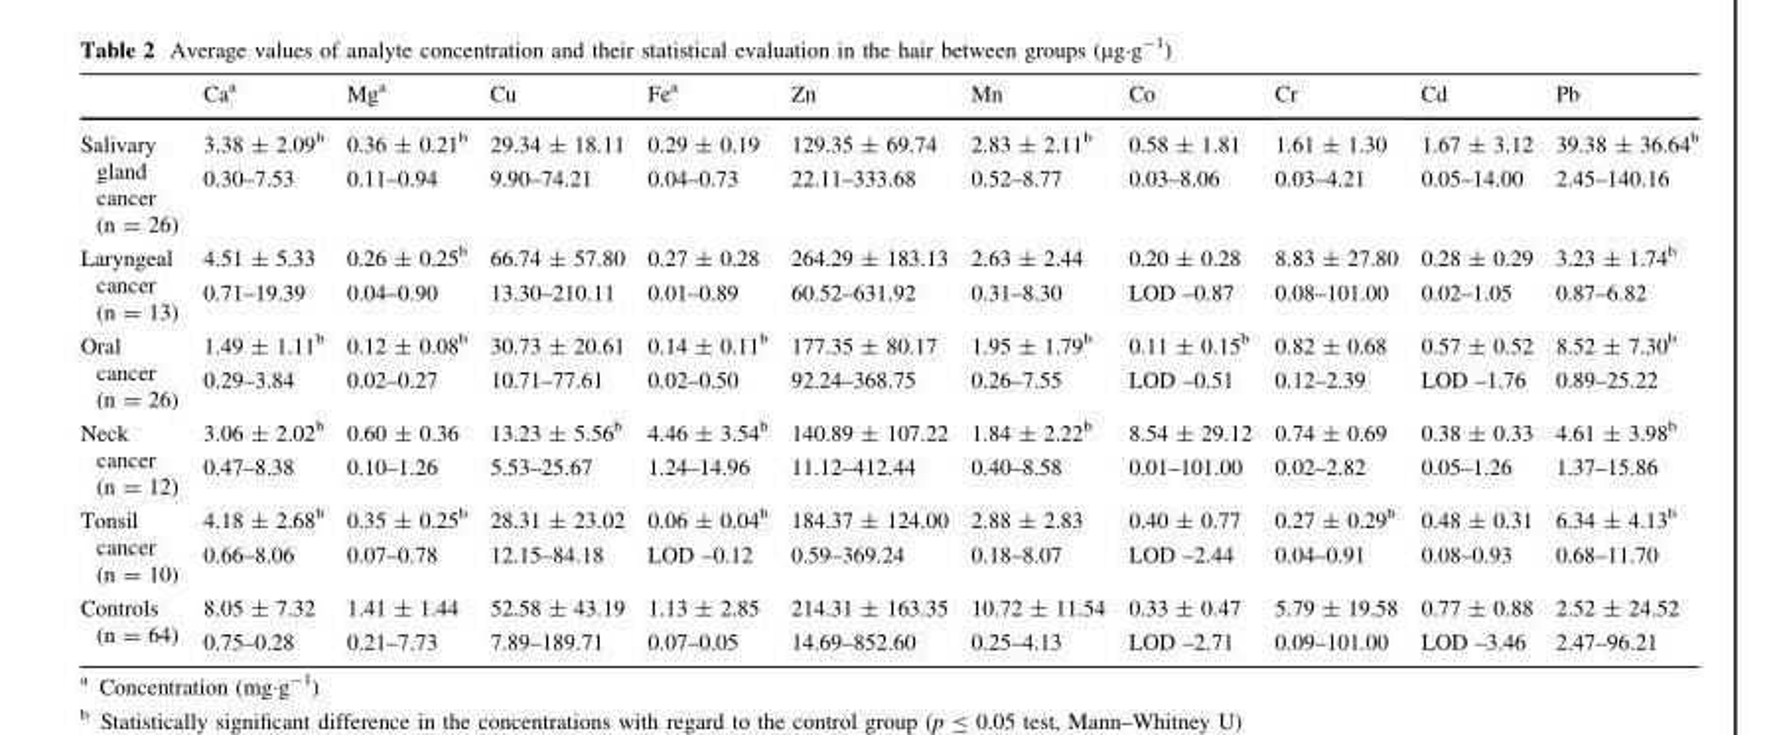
<table><thead><tr><td></td><td>Ca<sup>a</sup></td><td>Mg<sup>a</sup></td><td>Cu</td><td>Fe<sup>a</sup></td><td>Zn</td><td>Mn</td><td>Co</td><td>Cr</td><td>Cd</td><td>Pb</td></tr></thead><tbody><tr><td rowspan="2">Salivary gland cancer (n = 26)</td><td>3.38 ± 2.09<sup>b</sup></td><td>0.36 ± 0.21<sup>b</sup></td><td>29.34 ± 18.11</td><td>0.29 ± 0.19</td><td>129.35 ± 69.74</td><td>2.83 ± 2.11<sup>b</sup></td><td>0.58 ± 1.81</td><td>1.61 ± 1.30</td><td>1.67 ± 3.12</td><td>39.38 ± 36.64<sup>b</sup></td></tr><tr><td>0.30–7.53</td><td>0.11–0.94</td><td>9.90–74.21</td><td>0.04–0.73</td><td>22.11–333.68</td><td>0.52–8.77</td><td>0.03–8.06</td><td>0.03–4.21</td><td>0.05–14.00</td><td>2.45–140.16</td></tr><tr><td rowspan="2">Laryngeal cancer (n = 13)</td><td>4.51 ± 5.33</td><td>0.26 ± 0.25<sup>b</sup></td><td>66.74 ± 57.80</td><td>0.27 ± 0.28</td><td>264.29 ± 183.13</td><td>2.63 ± 2.44</td><td>0.20 ± 0.28</td><td>8.83 ± 27.80</td><td>0.28 ± 0.29</td><td>3.23 ± 1.74<sup>b</sup></td></tr><tr><td>0.71–19.39</td><td>0.04–0.90</td><td>13.30–210.11</td><td>0.01–0.89</td><td>60.52–631.92</td><td>0.31–8.30</td><td>LOD –0.87</td><td>0.08–101.00</td><td>0.02–1.05</td><td>0.87–6.82</td></tr><tr><td rowspan="2">Oral cancer (n = 26)</td><td>1.49 ± 1.11<sup>b</sup></td><td>0.12 ± 0.08<sup>b</sup></td><td>30.73 ± 20.61</td><td>0.14 ± 0.11<sup>b</sup></td><td>177.35 ± 80.17</td><td>1.95 ± 1.79<sup>b</sup></td><td>0.11 ± 0.15<sup>b</sup></td><td>0.82 ± 0.68</td><td>0.57 ± 0.52</td><td>8.52 ± 7.30<sup>b</sup></td></tr><tr><td>0.29–3.84</td><td>0.02–0.27</td><td>10.71–77.61</td><td>0.02–0.50</td><td>92.24–368.75</td><td>0.26–7.55</td><td>LOD –0.51</td><td>0.12–2.39</td><td>LOD –1.76</td><td>0.89–25.22</td></tr><tr><td rowspan="2">Neck cancer (n = 12)</td><td>3.06 ± 2.02<sup>b</sup></td><td>0.60 ± 0.36</td><td>13.23 ± 5.56<sup>b</sup></td><td>4.46 ± 3.54<sup>b</sup></td><td>140.89 ± 107.22</td><td>1.84 ± 2.22<sup>b</sup></td><td>8.54 ± 29.12</td><td>0.74 ± 0.69</td><td>0.38 ± 0.33</td><td>4.61 ± 3.98<sup>b</sup></td></tr><tr><td>0.47–8.38</td><td>0.10–1.26</td><td>5.53–25.67</td><td>1.24–14.96</td><td>11.12–412.44</td><td>0.40–8.58</td><td>0.01–101.00</td><td>0.02–2.82</td><td>0.05–1.26</td><td>1.37–15.86</td></tr><tr><td rowspan="2">Tonsil cancer (n = 10)</td><td>4.18 ± 2.68<sup>b</sup></td><td>0.35 ± 0.25<sup>b</sup></td><td>28.31 ± 23.02</td><td>0.06 ± 0.04<sup>b</sup></td><td>184.37 ± 124.00</td><td>2.88 ± 2.83</td><td>0.40 ± 0.77</td><td>0.27 ± 0.29<sup>b</sup></td><td>0.48 ± 0.31</td><td>6.34 ± 4.13<sup>b</sup></td></tr><tr><td>0.66–8.06</td><td>0.07–0.78</td><td>12.15–84.18</td><td>LOD –0.12</td><td>0.59–369.24</td><td>0.18–8.07</td><td>LOD –2.44</td><td>0.04–0.91</td><td>0.08–0.93</td><td>0.68–11.70</td></tr><tr><td rowspan="2">Controls (n = 64)</td><td>8.05 ± 7.32</td><td>1.41 ± 1.44</td><td>52.58 ± 43.19</td><td>1.13 ± 2.85</td><td>214.31 ± 163.35</td><td>10.72 ± 11.54</td><td>0.33 ± 0.47</td><td>5.79 ± 19.58</td><td>0.77 ± 0.88</td><td>2.52 ± 24.52</td></tr><tr><td>0.75–0.28</td><td>0.21–7.73</td><td>7.89–189.71</td><td>0.07–0.05</td><td>14.69–852.60</td><td>0.25–4.13</td><td>LOD –2.71</td><td>0.09–101.00</td><td>LOD –3.46</td><td>2.47–96.21</td></tr></tbody></table>